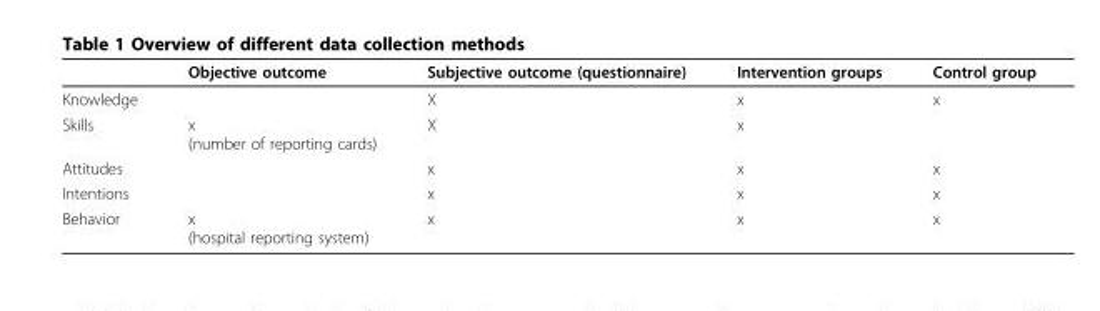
<table><thead><tr><td></td><td>Objective outcome</td><td>Subjective outcome (questionnaire)</td><td>Intervention groups</td><td>Control group</td></tr></thead><tbody><tr><td>Knowledge</td><td></td><td>X</td><td>x</td><td>x</td></tr><tr><td>Skills</td><td>x (number of reporting cards)</td><td>X</td><td>x</td><td></td></tr><tr><td>Attitudes</td><td></td><td>x</td><td>x</td><td>x</td></tr><tr><td>Intentions</td><td></td><td>x</td><td>x</td><td>x</td></tr><tr><td>Behavior</td><td>x (hospital reporting system)</td><td>x</td><td>x</td><td>x</td></tr></tbody></table>